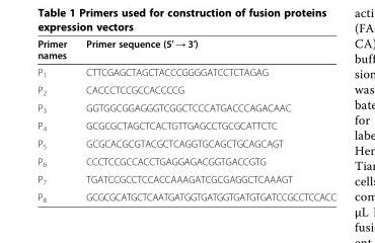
<table><thead><tr><td>Primer names</td><td>Primer sequence (5′ → 3′)</td></tr></thead><tbody><tr><td>P<sub>1</sub></td><td>CTTCGAGCTAGCTACCCGGGGATCCTCTAGAG</td></tr><tr><td>P<sub>2</sub></td><td>CACCCTCCGCCACCCCG</td></tr><tr><td>P<sub>3</sub></td><td>GGTGGCGGAGGGTCGGCTCCCATGACCCAGACAAC</td></tr><tr><td>P<sub>4</sub></td><td>GCGCGCTAGCTCACTGTTGAGCCTGCGCATTCTC</td></tr><tr><td>P<sub>5</sub></td><td>GCGCACGCGTACGCTCAGGTGCAGCTGCAGCAGT</td></tr><tr><td>P<sub>6</sub></td><td>CCCTCCGCCACCTGAGGAGACGGTGACCGTG</td></tr><tr><td>P<sub>7</sub></td><td>TGATCCGCCTCCACCAAAGATCGCGAGGCTCAAAGT</td></tr><tr><td>P<sub>8</sub></td><td>GCGCGCATGCTCAATGATGGTGATGGTGATGTGATCCGCCTCCACC</td></tr></tbody></table>